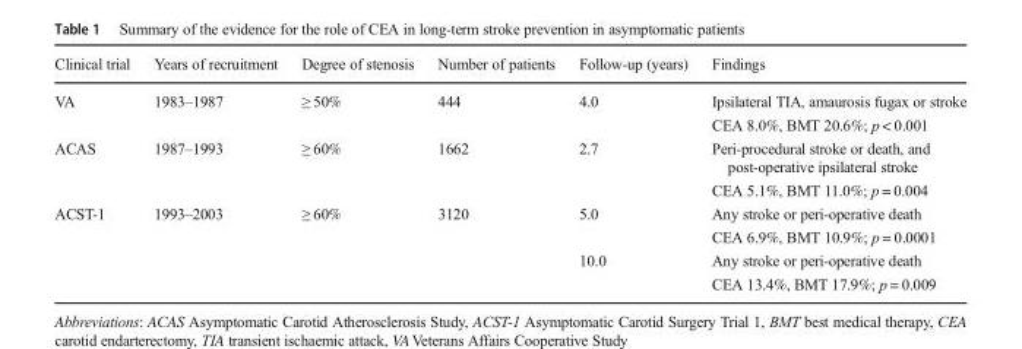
<table><thead><tr><td>Clinical trial</td><td>Years of recruitment</td><td>Degree of stenosis</td><td>Number of patients</td><td>Follow-up (years)</td><td>Findings</td></tr></thead><tbody><tr><td rowspan="2">VA</td><td rowspan="2">1983–1987</td><td rowspan="2">≥ 50%</td><td rowspan="2">444</td><td rowspan="2">4.0</td><td>Ipsilateral TIA, amaurosis fugax or stroke</td></tr><tr><td>CEA 8.0%, BMT 20.6%; p &lt; 0.001</td></tr><tr><td rowspan="2">ACAS</td><td rowspan="2">1987–1993</td><td rowspan="2">≥ 60%</td><td rowspan="2">1662</td><td rowspan="2">2.7</td><td>Peri-procedural stroke or death, and post-operative ipsilateral stroke</td></tr><tr><td>CEA 5.1%, BMT 11.0%; p = 0.004</td></tr><tr><td rowspan="4">ACST-1</td><td rowspan="4">1993–2003</td><td rowspan="4">≥ 60%</td><td rowspan="4">3120</td><td rowspan="2">5.0</td><td>Any stroke or peri-operative death</td></tr><tr><td>CEA 6.9%, BMT 10.9%; p = 0.0001</td></tr><tr><td rowspan="2">10.0</td><td>Any stroke or peri-operative death</td></tr><tr><td>CEA 13.4%, BMT 17.9%; p = 0.009</td></tr></tbody></table>